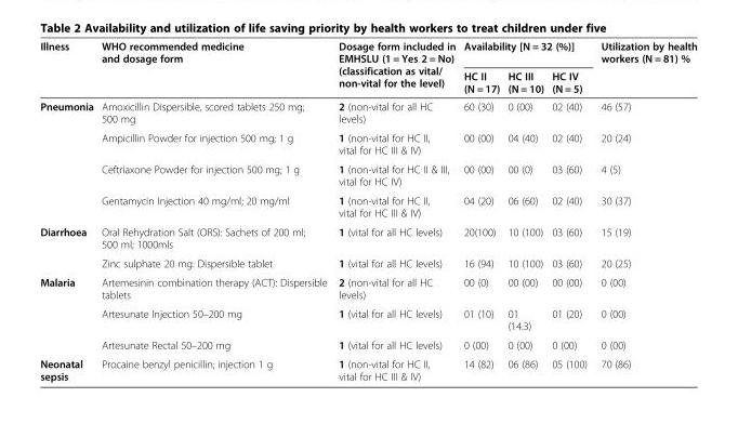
<table><thead><tr><td rowspan="2">Illness</td><td rowspan="2">WHO recommended medicine and dosage form</td><td rowspan="2">Dosage form included in EMHSLU (1 = Yes 2 = No) (classification as vital/ non-vital for the level)</td><td colspan="3">Availability [N = 32 (%)]</td><td rowspan="2">Utilization by health workers (N = 81) %</td></tr><tr><td>HC II (N = 17)</td><td>HC III (N = 10)</td><td>HC IV (N = 5)</td></tr></thead><tbody><tr><td rowspan="4">Pneumonia</td><td>Amoxicillin Dispersible, scored tablets 250 mg; 500 mg</td><td>2 (non-vital for all HC levels)</td><td>60 (30)</td><td>0 (00)</td><td>02 (40)</td><td>46 (57)</td></tr><tr><td>Ampicillin Powder for injection 500 mg; 1 g</td><td>1 (non-vital for HC II, vital for HC III &amp; IV)</td><td>00 (00)</td><td>04 (40)</td><td>02 (40)</td><td>20 (24)</td></tr><tr><td>Ceftriaxone Powder for injection 500 mg; 1 g</td><td>1 (non-vital for HC II &amp; III, vital for HC IV)</td><td>00 (00)</td><td>00 (0)</td><td>03 (60)</td><td>4 (5)</td></tr><tr><td>Gentamycin Injection 40 mg/ml; 20 mg/ml</td><td>1 (non-vital for HC II, vital for HC III &amp; IV)</td><td>04 (20)</td><td>06 (60)</td><td>02 (40)</td><td>30 (37)</td></tr><tr><td rowspan="2">Diarrhoea</td><td>Oral Rehydration Salt (ORS): Sachets of 200 ml; 500 ml; 1000mls</td><td>1 (vital for all HC levels)</td><td>20(100)</td><td>10 (100)</td><td>03 (60)</td><td>15 (19)</td></tr><tr><td>Zinc sulphate 20 mg: Dispersible tablet</td><td>1 (vital for all HC levels)</td><td>16 (94)</td><td>10 (100)</td><td>03 (60)</td><td>20 (25)</td></tr><tr><td rowspan="3">Malaria</td><td>Artemesinin combination therapy (ACT): Dispersible tablets</td><td>2 (non-vital for all HC levels)</td><td>00 (0)</td><td>00 (00)</td><td>00 (00)</td><td>0 (00)</td></tr><tr><td>Artesunate Injection 50–200 mg</td><td>1 (vital for all HC levels)</td><td>01 (10)</td><td>01 (14.3)</td><td>01 (20)</td><td>0 (00)</td></tr><tr><td>Artesunate Rectal 50–200 mg</td><td>1 (vital for all HC levels)</td><td>0 (00)</td><td>0 (00)</td><td>0 (00)</td><td>0 (00)</td></tr><tr><td>Neonatal sepsis</td><td>Procaine benzyl penicillin; injection 1 g</td><td>1 (non-vital for HC II, vital for HC III &amp; IV)</td><td>14 (82)</td><td>06 (86)</td><td>05 (100)</td><td>70 (86)</td></tr></tbody></table>